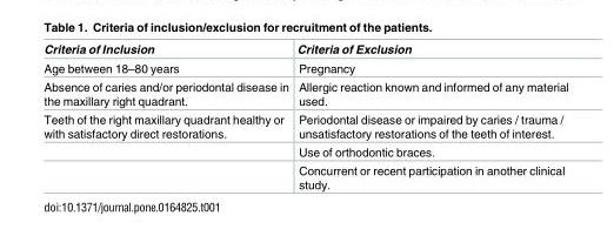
<table><thead><tr><td>Criteria of Inclusion</td><td>Criteria of Exclusion</td></tr></thead><tbody><tr><td>Age between 18–80 years</td><td>Pregnancy</td></tr><tr><td>Absence of caries and/or periodontal disease in the maxillary right quadrant.</td><td>Allergic reaction known and informed of any material used.</td></tr><tr><td rowspan="3">Teeth of the right maxillary quadrant healthy or with satisfactory direct restorations.</td><td>Periodontal disease or impaired by caries / trauma / unsatisfactory restorations of the teeth of interest.</td></tr><tr><td>Use of orthodontic braces.</td></tr><tr><td>Concurrent or recent participation in another clinical study.</td></tr></tbody></table>